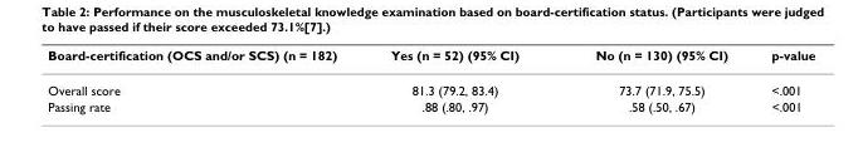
<table><thead><tr><td>Board-certification (OCS and/or SCS) (n = 182)</td><td>Yes (n = 52) (95% CI)</td><td>No (n = 130) (95% CI)</td><td>p-value</td></tr></thead><tbody><tr><td>Overall score</td><td>81.3 (79.2, 83.4)</td><td>73.7 (71.9, 75.5)</td><td>&lt;.001</td></tr><tr><td>Passing rate</td><td>.88 (.80, .97)</td><td>.58 (.50, .67)</td><td>&lt;.001</td></tr></tbody></table>